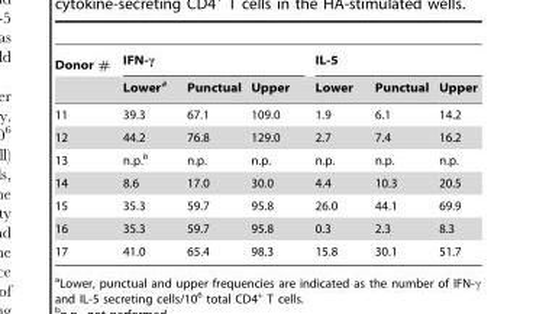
<table><thead><tr><td rowspan="2">Donor #</td><td colspan="3">IFN-γ</td><td colspan="3">IL-5</td></tr><tr><td>Lower<sup>a</sup></td><td>Punctual</td><td>Upper</td><td>Lower</td><td>Punctual</td><td>Upper</td></tr></thead><tbody><tr><td>11</td><td>39.3</td><td>67.1</td><td>109.0</td><td>1.9</td><td>6.1</td><td>14.2</td></tr><tr><td>12</td><td>44.2</td><td>76.8</td><td>129.0</td><td>2.7</td><td>7.4</td><td>16.2</td></tr><tr><td>13</td><td>n.p.<sup>b</sup></td><td>n.p.</td><td>n.p.</td><td>n.p.</td><td>n.p.</td><td>n.p.</td></tr><tr><td>14</td><td>8.6</td><td>17.0</td><td>30.0</td><td>4.4</td><td>10.3</td><td>20.5</td></tr><tr><td>15</td><td>35.3</td><td>59.7</td><td>95.8</td><td>26.0</td><td>44.1</td><td>69.9</td></tr><tr><td>16</td><td>35.3</td><td>59.7</td><td>95.8</td><td>0.3</td><td>2.3</td><td>8.3</td></tr><tr><td>17</td><td>41.0</td><td>65.4</td><td>98.3</td><td>15.8</td><td>30.1</td><td>51.7</td></tr></tbody></table>